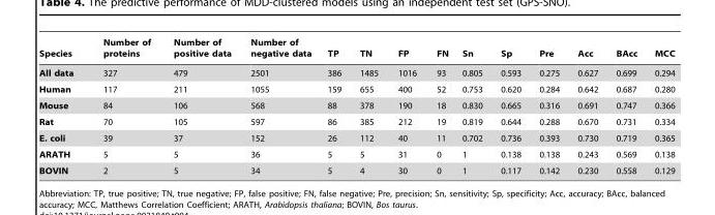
<table><thead><tr><td>Species</td><td>Number of proteins</td><td>Number of positive data</td><td>Number of negative data</td><td>TP</td><td>TN</td><td>FP</td><td>FN</td><td>Sn</td><td>Sp</td><td>Pre</td><td>Acc</td><td>BAcc</td><td>MCC</td></tr></thead><tbody><tr><td>All data</td><td>327</td><td>479</td><td>2501</td><td>386</td><td>1485</td><td>1016</td><td>93</td><td>0.805</td><td>0.593</td><td>0.275</td><td>0.627</td><td>0.699</td><td>0.294</td></tr><tr><td>Human</td><td>117</td><td>211</td><td>1055</td><td>159</td><td>655</td><td>400</td><td>52</td><td>0.753</td><td>0.620</td><td>0.284</td><td>0.642</td><td>0.687</td><td>0.280</td></tr><tr><td>Mouse</td><td>84</td><td>106</td><td>568</td><td>88</td><td>378</td><td>190</td><td>18</td><td>0.830</td><td>0.665</td><td>0.316</td><td>0.691</td><td>0.747</td><td>0.366</td></tr><tr><td>Rat</td><td>70</td><td>105</td><td>597</td><td>86</td><td>385</td><td>212</td><td>19</td><td>0.819</td><td>0.644</td><td>0.288</td><td>0.670</td><td>0.731</td><td>0.334</td></tr><tr><td>E. coli</td><td>39</td><td>37</td><td>152</td><td>26</td><td>112</td><td>40</td><td>11</td><td>0.702</td><td>0.736</td><td>0.393</td><td>0.730</td><td>0.719</td><td>0.365</td></tr><tr><td>ARATH</td><td>5</td><td>5</td><td>36</td><td>5</td><td>5</td><td>31</td><td>0</td><td>1</td><td>0.138</td><td>0.138</td><td>0.243</td><td>0.569</td><td>0.138</td></tr><tr><td>BOVIN</td><td>2</td><td>5</td><td>34</td><td>5</td><td>4</td><td>30</td><td>0</td><td>1</td><td>0.117</td><td>0.142</td><td>0.230</td><td>0.558</td><td>0.129</td></tr></tbody></table>